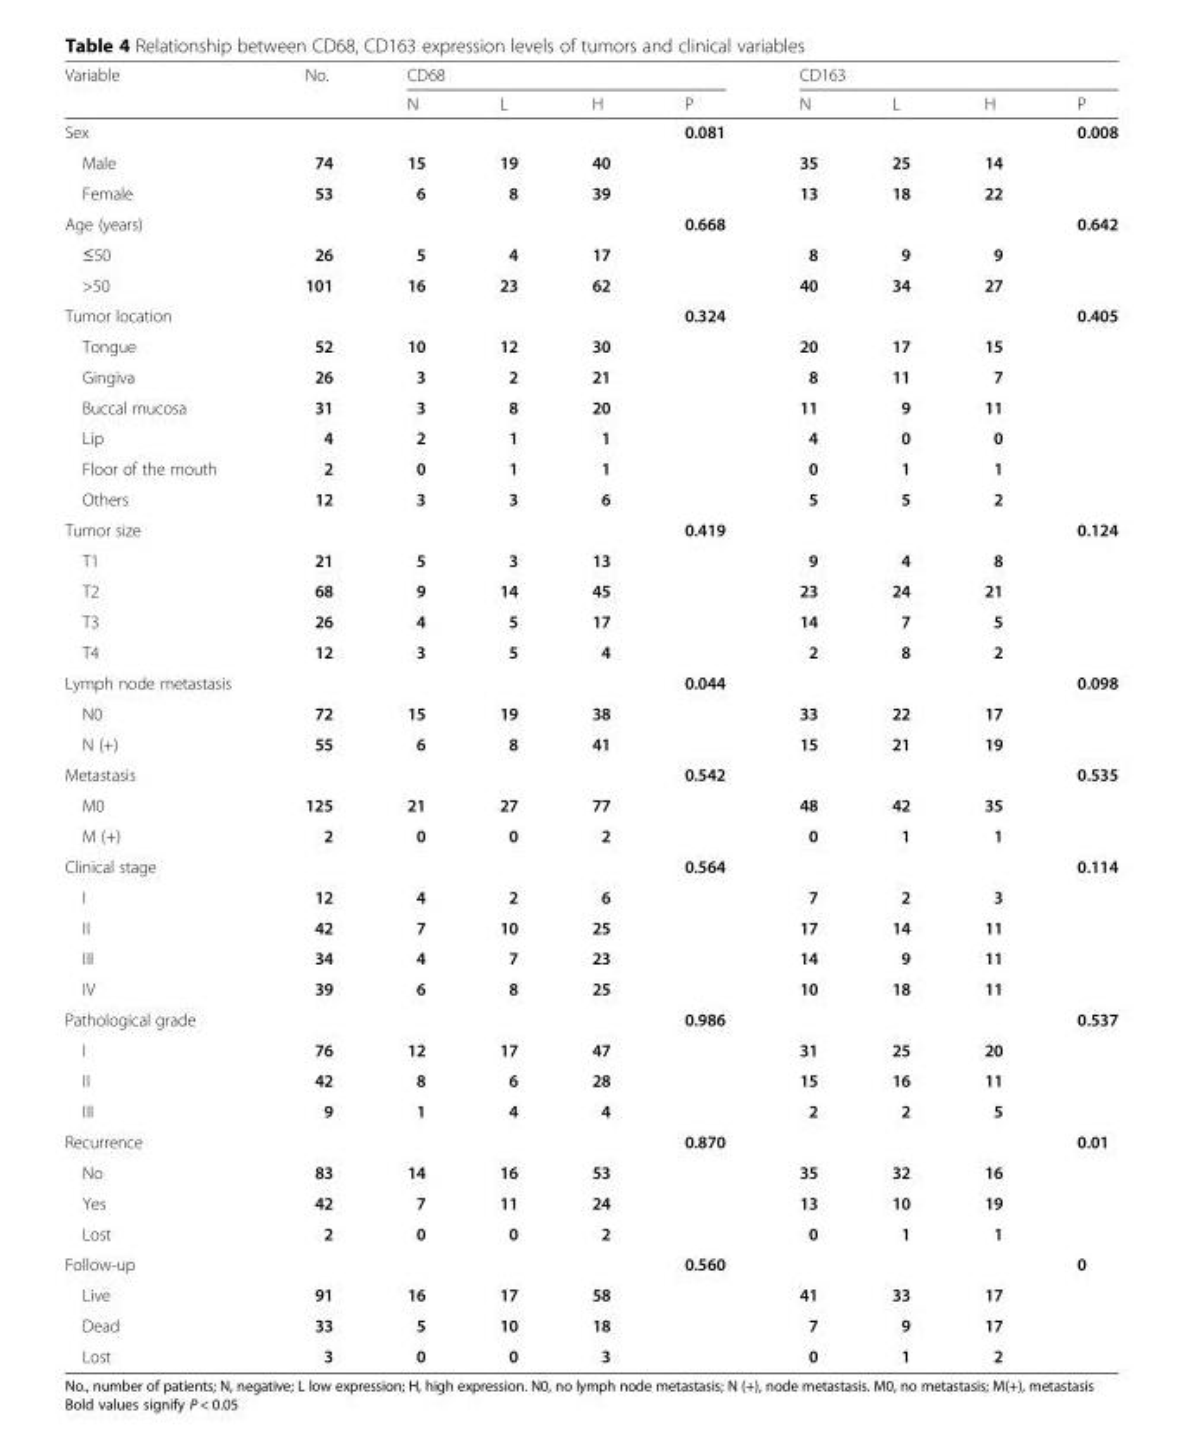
<table><thead><tr><td rowspan="2">Variable</td><td rowspan="2">No.</td><td colspan="4">CD68</td><td colspan="4">CD163</td></tr><tr><td>N</td><td>L</td><td>H</td><td>P</td><td>N</td><td>L</td><td>H</td><td>P</td></tr></thead><tbody><tr><td>Sex</td><td></td><td></td><td></td><td></td><td>0.081</td><td></td><td></td><td></td><td>0.008</td></tr><tr><td>Male</td><td>74</td><td>15</td><td>19</td><td>40</td><td></td><td>35</td><td>25</td><td>14</td><td></td></tr><tr><td>Female</td><td>53</td><td>6</td><td>8</td><td>39</td><td></td><td>13</td><td>18</td><td>22</td><td></td></tr><tr><td>Age (years)</td><td></td><td></td><td></td><td></td><td>0.668</td><td></td><td></td><td></td><td>0.642</td></tr><tr><td>≤50</td><td>26</td><td>5</td><td>4</td><td>17</td><td></td><td>8</td><td>9</td><td>9</td><td></td></tr><tr><td>&gt;50</td><td>101</td><td>16</td><td>23</td><td>62</td><td></td><td>40</td><td>34</td><td>27</td><td></td></tr><tr><td>Tumor location</td><td></td><td></td><td></td><td></td><td>0.324</td><td></td><td></td><td></td><td>0.405</td></tr><tr><td>Tongue</td><td>52</td><td>10</td><td>12</td><td>30</td><td></td><td>20</td><td>17</td><td>15</td><td></td></tr><tr><td>Gingiva</td><td>26</td><td>3</td><td>2</td><td>21</td><td></td><td>8</td><td>11</td><td>7</td><td></td></tr><tr><td>Buccal mucosa</td><td>31</td><td>3</td><td>8</td><td>20</td><td></td><td>11</td><td>9</td><td>11</td><td></td></tr><tr><td>Lip</td><td>4</td><td>2</td><td>1</td><td>1</td><td></td><td>4</td><td>0</td><td>0</td><td></td></tr><tr><td>Floor of the mouth</td><td>2</td><td>0</td><td>1</td><td>1</td><td></td><td>0</td><td>1</td><td>1</td><td></td></tr><tr><td>Others</td><td>12</td><td>3</td><td>3</td><td>6</td><td></td><td>5</td><td>5</td><td>2</td><td></td></tr><tr><td>Tumor size</td><td></td><td></td><td></td><td></td><td>0.419</td><td></td><td></td><td></td><td>0.124</td></tr><tr><td>T1</td><td>21</td><td>5</td><td>3</td><td>13</td><td></td><td>9</td><td>4</td><td>8</td><td></td></tr><tr><td>T2</td><td>68</td><td>9</td><td>14</td><td>45</td><td></td><td>23</td><td>24</td><td>21</td><td></td></tr><tr><td>T3</td><td>26</td><td>4</td><td>5</td><td>17</td><td></td><td>14</td><td>7</td><td>5</td><td></td></tr><tr><td>T4</td><td>12</td><td>3</td><td>5</td><td>4</td><td></td><td>2</td><td>8</td><td>2</td><td></td></tr><tr><td>Lymph node metastasis</td><td></td><td></td><td></td><td></td><td>0.044</td><td></td><td></td><td></td><td>0.098</td></tr><tr><td>N0</td><td>72</td><td>15</td><td>19</td><td>38</td><td></td><td>33</td><td>22</td><td>17</td><td></td></tr><tr><td>N (+)</td><td>55</td><td>6</td><td>8</td><td>41</td><td></td><td>15</td><td>21</td><td>19</td><td></td></tr><tr><td>Metastasis</td><td></td><td></td><td></td><td></td><td>0.542</td><td></td><td></td><td></td><td>0.535</td></tr><tr><td>M0</td><td>125</td><td>21</td><td>27</td><td>77</td><td></td><td>48</td><td>42</td><td>35</td><td></td></tr><tr><td>M (+)</td><td>2</td><td>0</td><td>0</td><td>2</td><td></td><td>0</td><td>1</td><td>1</td><td></td></tr><tr><td>Clinical stage</td><td></td><td></td><td></td><td></td><td>0.564</td><td></td><td></td><td></td><td>0.114</td></tr><tr><td>I</td><td>12</td><td>4</td><td>2</td><td>6</td><td></td><td>7</td><td>2</td><td>3</td><td></td></tr><tr><td>II</td><td>42</td><td>7</td><td>10</td><td>25</td><td></td><td>17</td><td>14</td><td>11</td><td></td></tr><tr><td>III</td><td>34</td><td>4</td><td>7</td><td>23</td><td></td><td>14</td><td>9</td><td>11</td><td></td></tr><tr><td>IV</td><td>39</td><td>6</td><td>8</td><td>25</td><td></td><td>10</td><td>18</td><td>11</td><td></td></tr><tr><td>Pathological grade</td><td></td><td></td><td></td><td></td><td>0.986</td><td></td><td></td><td></td><td>0.537</td></tr><tr><td>I</td><td>76</td><td>12</td><td>17</td><td>47</td><td></td><td>31</td><td>25</td><td>20</td><td></td></tr><tr><td>II</td><td>42</td><td>8</td><td>6</td><td>28</td><td></td><td>15</td><td>16</td><td>11</td><td></td></tr><tr><td>III</td><td>9</td><td>1</td><td>4</td><td>4</td><td></td><td>2</td><td>2</td><td>5</td><td></td></tr><tr><td>Recurrence</td><td></td><td></td><td></td><td></td><td>0.870</td><td></td><td></td><td></td><td>0.01</td></tr><tr><td>No</td><td>83</td><td>14</td><td>16</td><td>53</td><td></td><td>35</td><td>32</td><td>16</td><td></td></tr><tr><td>Yes</td><td>42</td><td>7</td><td>11</td><td>24</td><td></td><td>13</td><td>10</td><td>19</td><td></td></tr><tr><td>Lost</td><td>2</td><td>0</td><td>0</td><td>2</td><td></td><td>0</td><td>1</td><td>1</td><td></td></tr><tr><td>Follow-up</td><td></td><td></td><td></td><td></td><td>0.560</td><td></td><td></td><td></td><td>0</td></tr><tr><td>Live</td><td>91</td><td>16</td><td>17</td><td>58</td><td></td><td>41</td><td>33</td><td>17</td><td></td></tr><tr><td>Dead</td><td>33</td><td>5</td><td>10</td><td>18</td><td></td><td>7</td><td>9</td><td>17</td><td></td></tr><tr><td>Lost</td><td>3</td><td>0</td><td>0</td><td>3</td><td></td><td>0</td><td>1</td><td>2</td><td></td></tr></tbody></table>